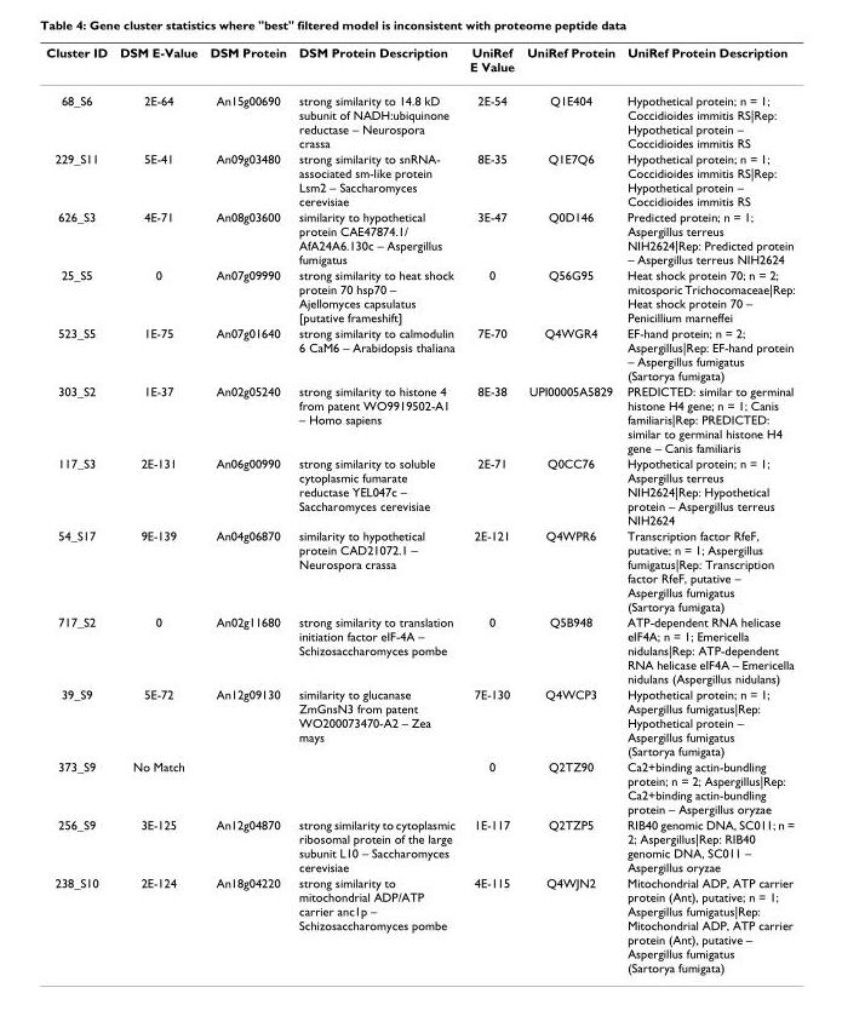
<table><thead><tr><td>Cluster ID</td><td>DSM E-Value</td><td>DSM Protein</td><td>DSM Protein Description</td><td>UniRef E Value</td><td>UniRef Protein</td><td>UniRef Protein Description</td></tr></thead><tbody><tr><td>68_S6</td><td>2E-64</td><td>An15g00690</td><td>strong similarity to 14.8 kD subunit of NADH:ubiquinone reductase – Neurospora crassa</td><td>2E-54</td><td>Q1E404</td><td>Hypothetical protein; n = 1; Coccidioides immitis RS|Rep: Hypothetical protein – Coccidioides immitis RS</td></tr><tr><td>229_S11</td><td>5E-41</td><td>An09g03480</td><td>strong similarity to snRNA- associated sm-like protein Lsm2 – Saccharomyces cerevisiae</td><td>8E-35</td><td>Q1E7Q6</td><td>Hypothetical protein; n = 1; Coccidioides immitis RS|Rep: Hypothetical protein – Coccidioides immitis RS</td></tr><tr><td>626_S3</td><td>4E-71</td><td>An08g03600</td><td>similarity to hypothetical protein CAE47874.1/ AfA24A6.130c – Aspergillus fumigatus</td><td>3E-47</td><td>Q0D146</td><td>Predicted protein; n = 1; Aspergillus terreus NIH2624|Rep: Predicted protein – Aspergillus terreus NIH2624</td></tr><tr><td>25_S5</td><td>0</td><td>An07g09990</td><td>strong similarity to heat shock protein 70 hsp70 – Ajellomyces capsulatus [putative frameshift]</td><td>0</td><td>Q56G95</td><td>Heat shock protein 70; n = 2; mitosporic Trichocomaceae|Rep: Heat shock protein 70 – Penicillium marneffei</td></tr><tr><td>523_S5</td><td>1E-75</td><td>An07g01640</td><td>strong similarity to calmodulin 6 CaM6 – Arabidopsis thaliana</td><td>7E-70</td><td>Q4WGR4</td><td>EF-hand protein; n = 2; Aspergillus|Rep: EF-hand protein – Aspergillus fumigatus (Sartorya fumigata)</td></tr><tr><td>303_S2</td><td>1E-37</td><td>An02g05240</td><td>strong similarity to histone 4 from patent WO9919502-A1 – Homo sapiens</td><td>8E-38</td><td>UPI00005A5829</td><td>PREDICTED: similar to germinal histone H4 gene; n = 1; Canis familiaris|Rep: PREDICTED: similar to germinal histone H4 gene – Canis familiaris</td></tr><tr><td>117_S3</td><td>2E-131</td><td>An06g00990</td><td>strong similarity to soluble cytoplasmic fumarate reductase YEL047c – Saccharomyces cerevisiae</td><td>2E-71</td><td>Q0CC76</td><td>Hypothetical protein; n = 1; Aspergillus terreus NIH2624|Rep: Hypothetical protein – Aspergillus terreus NIH2624</td></tr><tr><td>54_S17</td><td>9E-139</td><td>An04g06870</td><td>similarity to hypothetical protein CAD21072.1 – Neurospora crassa</td><td>2E-121</td><td>Q4WPR6</td><td>Transcription factor RfeF, putative; n = 1; Aspergillus fumigatus|Rep: Transcription factor RfeF, putative – Aspergillus fumigatus (Sartorya fumigata)</td></tr><tr><td>717_S2</td><td>0</td><td>An02g11680</td><td>strong similarity to translation initiation factor eIF-4A – Schizosaccharomyces pombe</td><td>0</td><td>Q5B948</td><td>ATP-dependent RNA helicase eIF4A; n = 1; Emericella nidulans|Rep: ATP-dependent RNA helicase eIF4A – Emericella nidulans (Aspergillus nidulans)</td></tr><tr><td>39_S9</td><td>5E-72</td><td>An12g09130</td><td>similarity to glucanase ZmGnsN3 from patent WO200073470-A2 – Zea mays</td><td>7E-130</td><td>Q4WCP3</td><td>Hypothetical protein; n = 1; Aspergillus fumigatus|Rep: Hypothetical protein – Aspergillus fumigatus (Sartorya fumigata)</td></tr><tr><td>373_S9</td><td>No Match</td><td></td><td></td><td>0</td><td>Q2TZ90</td><td>Ca2+binding actin-bundling protein; n = 2; Aspergillus|Rep: Ca2+binding actin-bundling protein – Aspergillus oryzae</td></tr><tr><td>256_S9</td><td>3E-125</td><td>An12g04870</td><td>strong similarity to cytoplasmic ribosomal protein of the large subunit L10 – Saccharomyces cerevisiae</td><td>1E-117</td><td>Q2TZP5</td><td>RIB40 genomic DNA, SC011; n = 2; Aspergillus|Rep: RIB40 genomic DNA, SC011 – Aspergillus oryzae</td></tr><tr><td>238_S10</td><td>2E-124</td><td>An18g04220</td><td>strong similarity to mitochondrial ADP/ATP carrier anc1p – Schizosaccharomyces pombe</td><td>4E-115</td><td>Q4WJN2</td><td>Mitochondrial ADP, ATP carrier protein (Ant), putative; n = 1; Aspergillus fumigatus|Rep: Mitochondrial ADP, ATP carrier protein (Ant), putative – Aspergillus fumigatus (Sartorya fumigata)</td></tr></tbody></table>